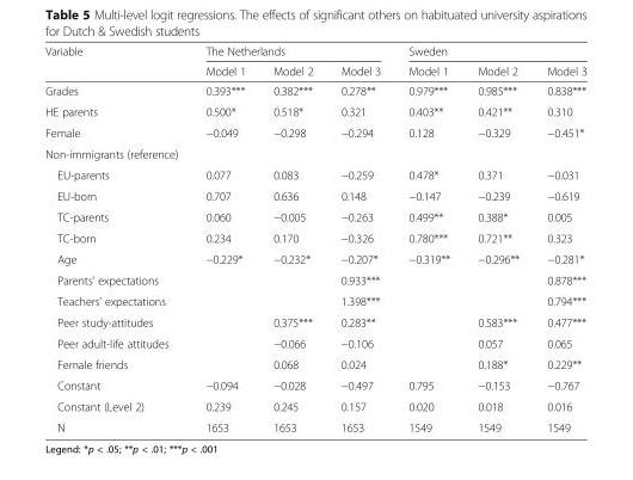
<table><thead><tr><td rowspan="2">Variable</td><td colspan="3">The Netherlands</td><td colspan="3">Sweden</td></tr><tr><td>Model 1</td><td>Model 2</td><td>Model 3</td><td>Model 1</td><td>Model 2</td><td>Model 3</td></tr></thead><tbody><tr><td>Grades</td><td>0.393***</td><td>0.382***</td><td>0.278**</td><td>0.979***</td><td>0.985***</td><td>0.838***</td></tr><tr><td>HE parents</td><td>0.500*</td><td>0.518*</td><td>0.321</td><td>0.403**</td><td>0.421**</td><td>0.310</td></tr><tr><td>Female</td><td>−0.049</td><td>−0.298</td><td>−0.294</td><td>0.128</td><td>−0.329</td><td>−0.451*</td></tr><tr><td colspan="7">Non-immigrants (reference)</td></tr><tr><td>EU-parents</td><td>0.077</td><td>0.083</td><td>−0.259</td><td>0.478*</td><td>0.371</td><td>−0.031</td></tr><tr><td>EU-born</td><td>0.707</td><td>0.636</td><td>0.148</td><td>−0.147</td><td>−0.239</td><td>−0.619</td></tr><tr><td>TC-parents</td><td>0.060</td><td>−0.005</td><td>−0.263</td><td>0.499**</td><td>0.388*</td><td>0.005</td></tr><tr><td>TC-born</td><td>0.234</td><td>0.170</td><td>−0.326</td><td>0.780***</td><td>0.721**</td><td>0.323</td></tr><tr><td>Age</td><td>−0.229*</td><td>−0.232*</td><td>−0.207*</td><td>−0.319**</td><td>−0.296**</td><td>−0.281*</td></tr><tr><td>Parents’ expectations</td><td></td><td></td><td>0.933***</td><td></td><td></td><td>0.878***</td></tr><tr><td>Teachers’ expectations</td><td></td><td></td><td>1.398***</td><td></td><td></td><td>0.794***</td></tr><tr><td>Peer study-attitudes</td><td></td><td>0.375***</td><td>0.283**</td><td></td><td>0.583***</td><td>0.477***</td></tr><tr><td>Peer adult-life attitudes</td><td></td><td>−0.066</td><td>−0.106</td><td></td><td>0.057</td><td>0.065</td></tr><tr><td>Female friends</td><td></td><td>0.068</td><td>0.024</td><td></td><td>0.188*</td><td>0.229**</td></tr><tr><td>Constant</td><td>−0.094</td><td>−0.028</td><td>−0.497</td><td>0.795</td><td>−0.153</td><td>−0.767</td></tr><tr><td>Constant (Level 2)</td><td>0.239</td><td>0.245</td><td>0.157</td><td>0.020</td><td>0.018</td><td>0.016</td></tr><tr><td>N</td><td>1653</td><td>1653</td><td>1653</td><td>1549</td><td>1549</td><td>1549</td></tr></tbody></table>